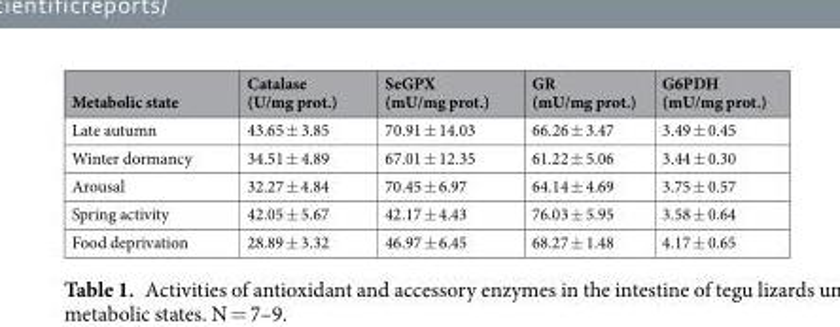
<table><thead><tr><td>Metabolic state</td><td>Catalase (U/mg prot.)</td><td>SeGPX (mU/mg prot.)</td><td>GR (mU/mg prot.)</td><td>G6PDH (mU/mg prot.)</td></tr></thead><tbody><tr><td>Late autumn</td><td>43.65 ± 3.85</td><td>70.91 ± 14.03</td><td>66.26 ± 3.47</td><td>3.49 ± 0.45</td></tr><tr><td>Winter dormancy</td><td>34.51 ± 4.89</td><td>67.01 ± 12.35</td><td>61.22 ± 5.06</td><td>3.44 ± 0.30</td></tr><tr><td>Arousal</td><td>32.27 ± 4.84</td><td>70.45 ± 6.97</td><td>64.14 ± 4.69</td><td>3.75 ± 0.57</td></tr><tr><td>Spring activity</td><td>42.05 ± 5.67</td><td>42.17 ± 4.43</td><td>76.03 ± 5.95</td><td>3.58 ± 0.64</td></tr><tr><td>Food deprivation</td><td>28.89 ± 3.32</td><td>46.97 ± 6.45</td><td>68.27 ± 1.48</td><td>4.17 ± 0.65</td></tr></tbody></table>